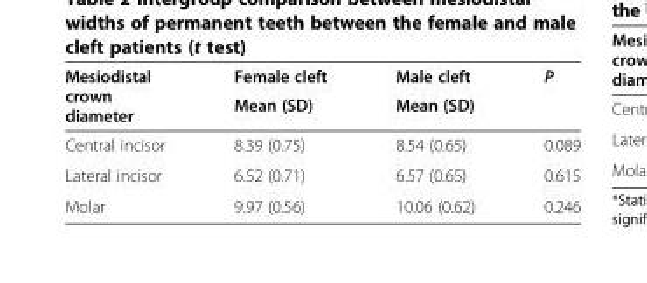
<table><thead><tr><td rowspan="2">Mesiodistal crown diameter</td><td rowspan="2">Female cleft Mean (SD)</td><td rowspan="2">Male cleft Mean (SD)</td><td rowspan="2">P</td></tr><tr></tr></thead><tbody><tr><td>Central incisor</td><td>8.39 (0.75)</td><td>8.54 (0.65)</td><td>0.089</td></tr><tr><td>Lateral incisor</td><td>6.52 (0.71)</td><td>6.57 (0.65)</td><td>0.615</td></tr><tr><td>Molar</td><td>9.97 (0.56)</td><td>10.06 (0.62)</td><td>0.246</td></tr></tbody></table>